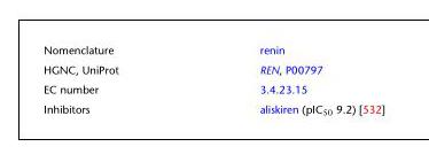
<table><tbody><tr><td>Nomenclature</td><td>renin</td></tr><tr><td>HGNC, UniProt</td><td>REN, P00797</td></tr><tr><td>EC number</td><td>3.4.23.15</td></tr><tr><td>Inhibitors</td><td>aliskiren (pIC<sub>50</sub> 9.2) [532]</td></tr></tbody></table>